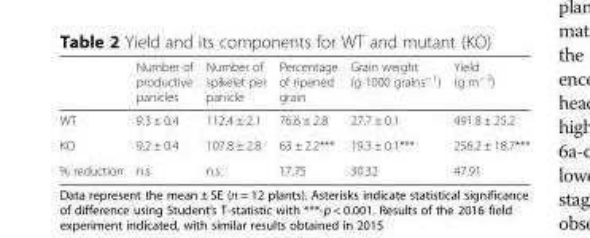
<table><thead><tr><td></td><td>Number of productive panicles</td><td>Number of spikelet per panicle</td><td>Percentage of ripened grain</td><td>Grain weight (g 1000 grains<sup>− 1</sup>)</td><td>Yield (g m<sup>− 2</sup>)</td></tr></thead><tbody><tr><td>WT</td><td>9.3 ± 0.4</td><td>112.4 ± 2.1</td><td>76.6 ± 2.8</td><td>27.7 ± 0.1</td><td>491.8 ± 25.2</td></tr><tr><td>KO</td><td>9.2 ± 0.4</td><td>107.8 ± 2.8</td><td>63 ± 2.2***</td><td>19.3 ± 0.1***</td><td>256.2 ± 18.7***</td></tr><tr><td>% reduction</td><td>n.s.</td><td>n.s.</td><td>17.75</td><td>30.32</td><td>47.91</td></tr></tbody></table>